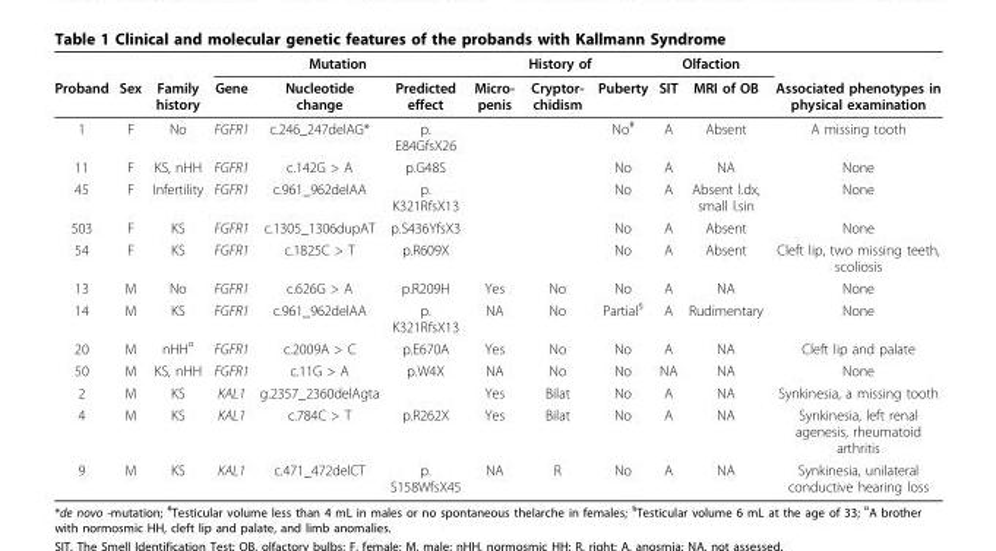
<table><thead><tr><td rowspan="2">Proband</td><td rowspan="2">Sex</td><td rowspan="2">Family history</td><td colspan="3">Mutation</td><td colspan="3">History of</td><td colspan="2">Olfaction</td><td rowspan="2">Associated phenotypes in physical examination</td></tr><tr><td>Gene</td><td>Nucleotide change</td><td>Predicted effect</td><td>Micro- penis</td><td>Cryptor- chidism</td><td>Puberty</td><td>SIT</td><td>MRI of OB</td></tr></thead><tbody><tr><td>1</td><td>F</td><td>No</td><td>FGFR1</td><td>c.246_247delAG*</td><td>p. E84GfsX26</td><td></td><td></td><td>No<sup>#</sup></td><td>A</td><td>Absent</td><td>A missing tooth</td></tr><tr><td>11</td><td>F</td><td>KS, nHH</td><td>FGFR1</td><td>c.142G &gt; A</td><td>p.G48S</td><td></td><td></td><td>No</td><td>A</td><td>NA</td><td>None</td></tr><tr><td>45</td><td>F</td><td>Infertility</td><td>FGFR1</td><td>c.961_962delAA</td><td>p. K321RfsX13</td><td></td><td></td><td>No</td><td>A</td><td>Absent l.dx, small l.sin</td><td>None</td></tr><tr><td>503</td><td>F</td><td>KS</td><td>FGFR1</td><td>c.1305_1306dupAT</td><td>p.S436YfsX3</td><td></td><td></td><td>No</td><td>A</td><td>Absent</td><td>None</td></tr><tr><td>54</td><td>F</td><td>KS</td><td>FGFR1</td><td>c.1825C &gt; T</td><td>p.R609X</td><td></td><td></td><td>No</td><td>A</td><td>Absent</td><td>Cleft lip, two missing teeth, scoliosis</td></tr><tr><td>13</td><td>M</td><td>No</td><td>FGFR1</td><td>c.626G &gt; A</td><td>p.R209H</td><td>Yes</td><td>No</td><td>No</td><td>A</td><td>NA</td><td>None</td></tr><tr><td>14</td><td>M</td><td>KS</td><td>FGFR1</td><td>c.961_962delAA</td><td>p. K321RfsX13</td><td>NA</td><td>No</td><td>Partial<sup>§</sup></td><td>A</td><td>Rudimentary</td><td>None</td></tr><tr><td>20</td><td>M</td><td>nHH<sup>¤</sup></td><td>FGFR1</td><td>c.2009A &gt; C</td><td>p.E670A</td><td>Yes</td><td>No</td><td>No</td><td>A</td><td>NA</td><td>Cleft lip and palate</td></tr><tr><td>50</td><td>M</td><td>KS, nHH</td><td>FGFR1</td><td>c.11G &gt; A</td><td>p.W4X</td><td>NA</td><td>No</td><td>No</td><td>NA</td><td>NA</td><td>None</td></tr><tr><td>2</td><td>M</td><td>KS</td><td>KAL1</td><td>g.2357_2360delAgta</td><td></td><td>Yes</td><td>Bilat</td><td>No</td><td>A</td><td>NA</td><td>Synkinesia, a missing tooth</td></tr><tr><td>4</td><td>M</td><td>KS</td><td>KAL1</td><td>c.784C &gt; T</td><td>p.R262X</td><td>Yes</td><td>Bilat</td><td>No</td><td>A</td><td>NA</td><td>Synkinesia, left renal agenesis, rheumatoid arthritis</td></tr><tr><td>9</td><td>M</td><td>KS</td><td>KAL1</td><td>c.471_472delCT</td><td>p. S158WfsX45</td><td>NA</td><td>R</td><td>No</td><td>A</td><td>NA</td><td>Synkinesia, unilateral conductive hearing loss</td></tr></tbody></table>